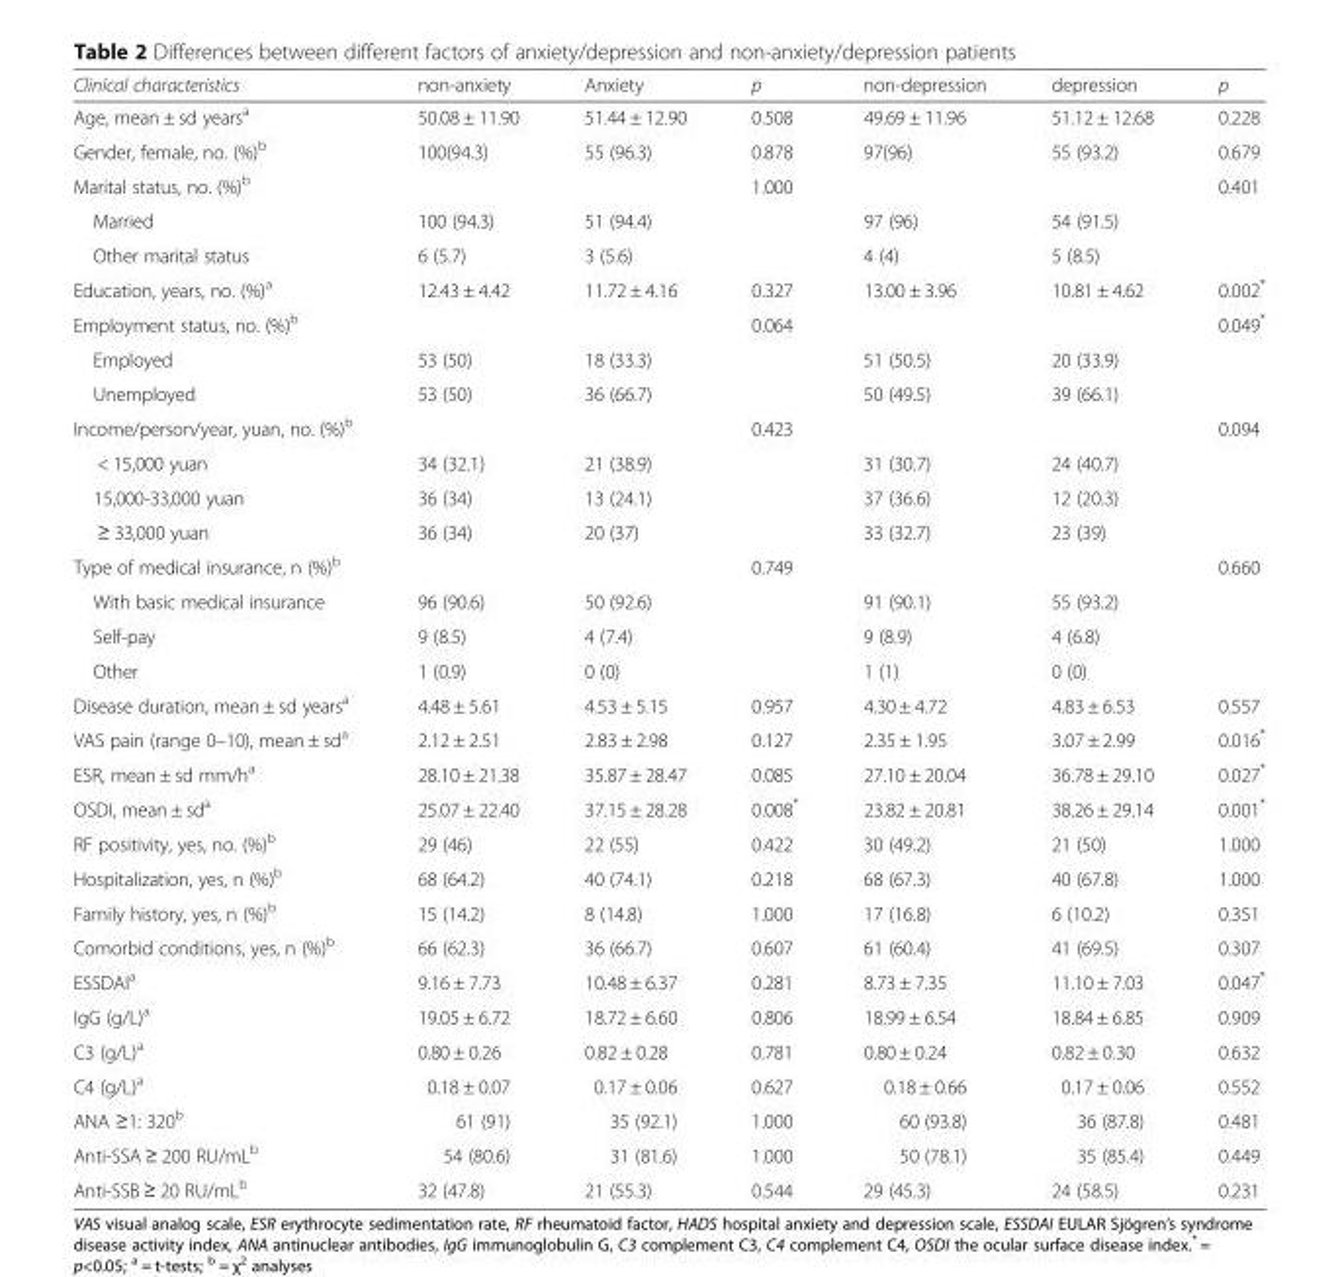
<table><thead><tr><td>Clinical characteristics</td><td>non-anxiety</td><td>Anxiety</td><td>p</td><td>non-depression</td><td>depression</td><td>p</td></tr></thead><tbody><tr><td>Age, mean ± sd years<sup>a</sup></td><td>50.08 ± 11.90</td><td>51.44 ± 12.90</td><td>0.508</td><td>49.69 ± 11.96</td><td>51.12 ± 12.68</td><td>0.228</td></tr><tr><td>Gender, female, no. (%)<sup>b</sup></td><td>100(94.3)</td><td>55 (96.3)</td><td>0.878</td><td>97(96)</td><td>55 (93.2)</td><td>0.679</td></tr><tr><td>Marital status, no. (%)<sup>b</sup></td><td></td><td></td><td>1.000</td><td></td><td></td><td>0.401</td></tr><tr><td>Married</td><td>100 (94.3)</td><td>51 (94.4)</td><td></td><td>97 (96)</td><td>54 (91.5)</td><td rowspan="2"></td></tr><tr><td>Other marital status</td><td>6 (5.7)</td><td>3 (5.6)</td><td></td><td>4 (4)</td><td>5 (8.5)</td></tr><tr><td>Education, years, no. (%)<sup>a</sup></td><td>12.43 ± 4.42</td><td>11.72 ± 4.16</td><td>0.327</td><td>13.00 ± 3.96</td><td>10.81 ± 4.62</td><td>0.002*</td></tr><tr><td>Employment status, no. (%)<sup>b</sup></td><td></td><td></td><td>0.064</td><td></td><td></td><td>0.049*</td></tr><tr><td>Employed</td><td>53 (50)</td><td>18 (33.3)</td><td></td><td>51 (50.5)</td><td>20 (33.9)</td><td rowspan="2"></td></tr><tr><td>Unemployed</td><td>53 (50)</td><td>36 (66.7)</td><td></td><td>50 (49.5)</td><td>39 (66.1)</td></tr><tr><td>Income/person/year, yuan, no. (%)<sup>b</sup></td><td></td><td></td><td>0.423</td><td></td><td></td><td>0.094</td></tr><tr><td>&lt; 15,000 yuan</td><td>34 (32.1)</td><td>21 (38.9)</td><td></td><td>31 (30.7)</td><td>24 (40.7)</td><td rowspan="3"></td></tr><tr><td>15,000-33,000 yuan</td><td>36 (34)</td><td>13 (24.1)</td><td></td><td>37 (36.6)</td><td>12 (20.3)</td></tr><tr><td>≥ 33,000 yuan</td><td>36 (34)</td><td>20 (37)</td><td></td><td>33 (32.7)</td><td>23 (39)</td></tr><tr><td>Type of medical insurance, n (%)<sup>b</sup></td><td></td><td></td><td>0.749</td><td></td><td></td><td>0.660</td></tr><tr><td>With basic medical insurance</td><td>96 (90.6)</td><td>50 (92.6)</td><td></td><td>91 (90.1)</td><td>55 (93.2)</td><td rowspan="3"></td></tr><tr><td>Self-pay</td><td>9 (8.5)</td><td>4 (7.4)</td><td></td><td>9 (8.9)</td><td>4 (6.8)</td></tr><tr><td>Other</td><td>1 (0.9)</td><td>0 (0)</td><td></td><td>1 (1)</td><td>0 (0)</td></tr><tr><td>Disease duration, mean ± sd years<sup>a</sup></td><td>4.48 ± 5.61</td><td>4.53 ± 5.15</td><td>0.957</td><td>4.30 ± 4.72</td><td>4.83 ± 6.53</td><td>0.557</td></tr><tr><td>VAS pain (range 0–10), mean ± sd<sup>a</sup></td><td>2.12 ± 2.51</td><td>2.83 ± 2.98</td><td>0.127</td><td>2.35 ± 1.95</td><td>3.07 ± 2.99</td><td>0.016*</td></tr><tr><td>ESR, mean ± sd mm/h<sup>a</sup></td><td>28.10 ± 21.38</td><td>35.87 ± 28.47</td><td>0.085</td><td>27.10 ± 20.04</td><td>36.78 ± 29.10</td><td>0.027*</td></tr><tr><td>OSDI, mean ± sd<sup>a</sup></td><td>25.07 ± 22.40</td><td>37.15 ± 28.28</td><td>0.008*</td><td>23.82 ± 20.81</td><td>38.26 ± 29.14</td><td>0.001*</td></tr><tr><td>RF positivity, yes, no. (%)<sup>b</sup></td><td>29 (46)</td><td>22 (55)</td><td>0.422</td><td>30 (49.2)</td><td>21 (50)</td><td>1.000</td></tr><tr><td>Hospitalization, yes, n (%)<sup>b</sup></td><td>68 (64.2)</td><td>40 (74.1)</td><td>0.218</td><td>68 (67.3)</td><td>40 (67.8)</td><td>1.000</td></tr><tr><td>Family history, yes, n (%)<sup>b</sup></td><td>15 (14.2)</td><td>8 (14.8)</td><td>1.000</td><td>17 (16.8)</td><td>6 (10.2)</td><td>0.351</td></tr><tr><td>Comorbid conditions, yes, n (%)<sup>b</sup></td><td>66 (62.3)</td><td>36 (66.7)</td><td>0.607</td><td>61 (60.4)</td><td>41 (69.5)</td><td>0.307</td></tr><tr><td>ESSDAI<sup>a</sup></td><td>9.16 ± 7.73</td><td>10.48 ± 6.37</td><td>0.281</td><td>8.73 ± 7.35</td><td>11.10 ± 7.03</td><td>0.047*</td></tr><tr><td>IgG (g/L)<sup>a</sup></td><td>19.05 ± 6.72</td><td>18.72 ± 6.60</td><td>0.806</td><td>18.99 ± 6.54</td><td>18.84 ± 6.85</td><td>0.909</td></tr><tr><td>C3 (g/L)<sup>a</sup></td><td>0.80 ± 0.26</td><td>0.82 ± 0.28</td><td>0.781</td><td>0.80 ± 0.24</td><td>0.82 ± 0.30</td><td>0.632</td></tr><tr><td>C4 (g/L)<sup>a</sup></td><td>0.18 ± 0.07</td><td>0.17 ± 0.06</td><td>0.627</td><td>0.18 ± 0.66</td><td>0.17 ± 0.06</td><td>0.552</td></tr><tr><td>ANA ≥1: 320<sup>b</sup></td><td>61 (91)</td><td>35 (92.1)</td><td>1.000</td><td>60 (93.8)</td><td>36 (87.8)</td><td>0.481</td></tr><tr><td>Anti-SSA ≥ 200 RU/mL<sup>b</sup></td><td>54 (80.6)</td><td>31 (81.6)</td><td>1.000</td><td>50 (78.1)</td><td>35 (85.4)</td><td>0.449</td></tr><tr><td>Anti-SSB ≥ 20 RU/mL<sup>b</sup></td><td>32 (47.8)</td><td>21 (55.3)</td><td>0.544</td><td>29 (45.3)</td><td>24 (58.5)</td><td>0.231</td></tr></tbody></table>